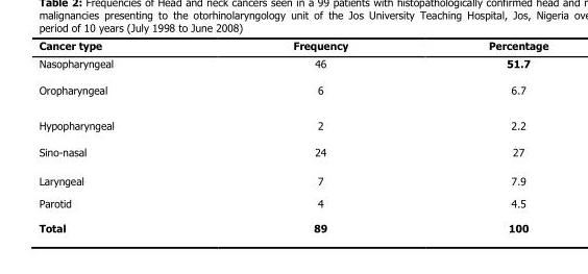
<table><thead><tr><td>Cancer type</td><td>Frequency</td><td>Percentage</td></tr></thead><tbody><tr><td>Nasopharyngeal</td><td>46</td><td>51.7</td></tr><tr><td>Oropharyngeal</td><td>6</td><td>6.7</td></tr><tr><td>Hypopharyngeal</td><td>2</td><td>2.2</td></tr><tr><td>Sino-nasal</td><td>24</td><td>27</td></tr><tr><td>Laryngeal</td><td>7</td><td>7.9</td></tr><tr><td>Parotid</td><td>4</td><td>4.5</td></tr><tr><td>Total</td><td>89</td><td>100</td></tr></tbody></table>